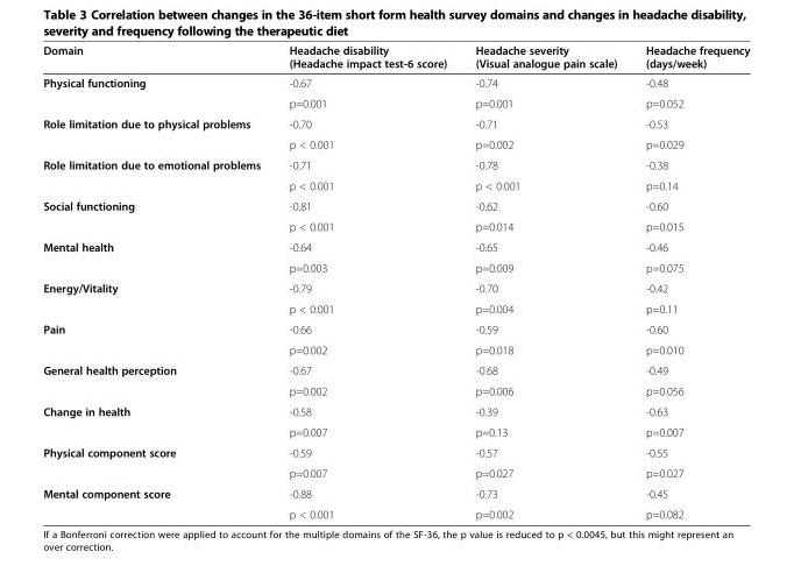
<table><thead><tr><td>Domain</td><td>Headache disability (Headache impact test-6 score)</td><td>Headache severity (Visual analogue pain scale)</td><td>Headache frequency (days/week)</td></tr></thead><tbody><tr><td rowspan="2">Physical functioning</td><td>-0.67</td><td>-0.74</td><td>-0.48</td></tr><tr><td>p=0.001</td><td>p=0.001</td><td>p=0.052</td></tr><tr><td rowspan="2">Role limitation due to physical problems</td><td>-0.70</td><td>-0.71</td><td>-0.53</td></tr><tr><td>p &lt; 0.001</td><td>p=0.002</td><td>p=0.029</td></tr><tr><td rowspan="2">Role limitation due to emotional problems</td><td>-0.71</td><td>-0.78</td><td>-0.38</td></tr><tr><td>p &lt; 0.001</td><td>p &lt; 0.001</td><td>p=0.14</td></tr><tr><td rowspan="2">Social functioning</td><td>-0.81</td><td>-0.62</td><td>-0.60</td></tr><tr><td>p &lt; 0.001</td><td>p=0.014</td><td>p=0.015</td></tr><tr><td rowspan="2">Mental health</td><td>-0.64</td><td>-0.65</td><td>-0.46</td></tr><tr><td>p=0.003</td><td>p=0.009</td><td>p=0.075</td></tr><tr><td rowspan="2">Energy/Vitality</td><td>-0.79</td><td>-0.70</td><td>-0.42</td></tr><tr><td>p &lt; 0.001</td><td>p=0.004</td><td>p=0.11</td></tr><tr><td rowspan="2">Pain</td><td>-0.66</td><td>-0.59</td><td>-0.60</td></tr><tr><td>p=0.002</td><td>p=0.018</td><td>p=0.010</td></tr><tr><td rowspan="2">General health perception</td><td>-0.67</td><td>-0.68</td><td>-0.49</td></tr><tr><td>p=0.002</td><td>p=0.006</td><td>p=0.056</td></tr><tr><td rowspan="2">Change in health</td><td>-0.58</td><td>-0.39</td><td>-0.63</td></tr><tr><td>p=0.007</td><td>p=0.13</td><td>p=0.007</td></tr><tr><td rowspan="2">Physical component score</td><td>-0.59</td><td>-0.57</td><td>-0.55</td></tr><tr><td>p=0.007</td><td>p=0.027</td><td>p=0.027</td></tr><tr><td rowspan="2">Mental component score</td><td>-0.88</td><td>-0.73</td><td>-0.45</td></tr><tr><td>p &lt; 0.001</td><td>p=0.002</td><td>p=0.082</td></tr></tbody></table>